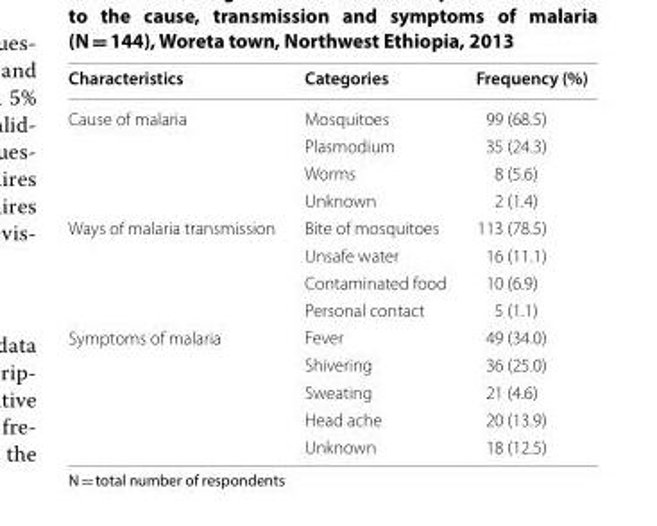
<table><thead><tr><td>Characteristics</td><td>Categories</td><td>Frequency (%)</td></tr></thead><tbody><tr><td rowspan="4">Cause of malaria</td><td>Mosquitoes</td><td>99 (68.5)</td></tr><tr><td>Plasmodium</td><td>35 (24.3)</td></tr><tr><td>Worms</td><td>8 (5.6)</td></tr><tr><td>Unknown</td><td>2 (1.4)</td></tr><tr><td rowspan="4">Ways of malaria transmission</td><td>Bite of mosquitoes</td><td>113 (78.5)</td></tr><tr><td>Unsafe water</td><td>16 (11.1)</td></tr><tr><td>Contaminated food</td><td>10 (6.9)</td></tr><tr><td>Personal contact</td><td>5 (1.1)</td></tr><tr><td rowspan="5">Symptoms of malaria</td><td>Fever</td><td>49 (34.0)</td></tr><tr><td>Shivering</td><td>36 (25.0)</td></tr><tr><td>Sweating</td><td>21 (4.6)</td></tr><tr><td>Head ache</td><td>20 (13.9)</td></tr><tr><td>Unknown</td><td>18 (12.5)</td></tr></tbody></table>